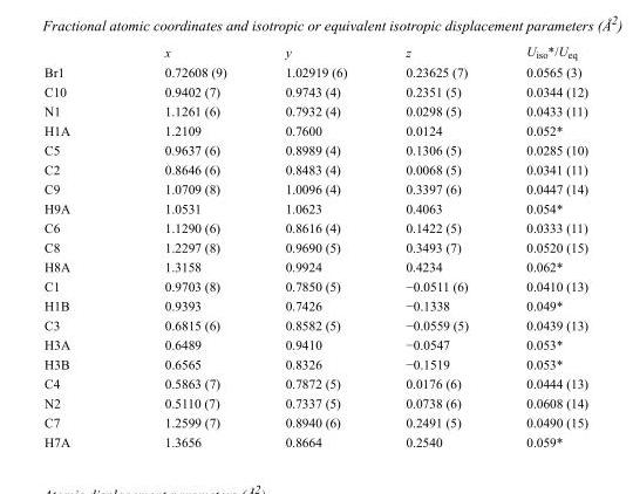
<table><thead><tr><td></td><td>x</td><td>y</td><td>z</td><td>U<sub>iso</sub>*/U<sub>eq</sub></td></tr></thead><tbody><tr><td>Br1</td><td>0.72608 (9)</td><td>1.02919 (6)</td><td>0.23625 (7)</td><td>0.0565 (3)</td></tr><tr><td>C10</td><td>0.9402 (7)</td><td>0.9743 (4)</td><td>0.2351 (5)</td><td>0.0344 (12)</td></tr><tr><td>N1</td><td>1.1261 (6)</td><td>0.7932 (4)</td><td>0.0298 (5)</td><td>0.0433 (11)</td></tr><tr><td>H1A</td><td>1.2109</td><td>0.7600</td><td>0.0124</td><td>0.052*</td></tr><tr><td>C5</td><td>0.9637 (6)</td><td>0.8989 (4)</td><td>0.1306 (5)</td><td>0.0285 (10)</td></tr><tr><td>C2</td><td>0.8646 (6)</td><td>0.8483 (4)</td><td>0.0068 (5)</td><td>0.0341 (11)</td></tr><tr><td>C9</td><td>1.0709 (8)</td><td>1.0096 (4)</td><td>0.3397 (6)</td><td>0.0447 (14)</td></tr><tr><td>H9A</td><td>1.0531</td><td>1.0623</td><td>0.4063</td><td>0.054*</td></tr><tr><td>C6</td><td>1.1290 (6)</td><td>0.8616 (4)</td><td>0.1422 (5)</td><td>0.0333 (11)</td></tr><tr><td>C8</td><td>1.2297 (8)</td><td>0.9690 (5)</td><td>0.3493 (7)</td><td>0.0520 (15)</td></tr><tr><td>H8A</td><td>1.3158</td><td>0.9924</td><td>0.4234</td><td>0.062*</td></tr><tr><td>C1</td><td>0.9703 (8)</td><td>0.7850 (5)</td><td>−0.0511 (6)</td><td>0.0410 (13)</td></tr><tr><td>H1B</td><td>0.9393</td><td>0.7426</td><td>−0.1338</td><td>0.049*</td></tr><tr><td>C3</td><td>0.6815 (6)</td><td>0.8582 (5)</td><td>−0.0559 (5)</td><td>0.0439 (13)</td></tr><tr><td>H3A</td><td>0.6489</td><td>0.9410</td><td>−0.0547</td><td>0.053*</td></tr><tr><td>H3B</td><td>0.6565</td><td>0.8326</td><td>−0.1519</td><td>0.053*</td></tr><tr><td>C4</td><td>0.5863 (7)</td><td>0.7872 (5)</td><td>0.0176 (6)</td><td>0.0444 (13)</td></tr><tr><td>N2</td><td>0.5110 (7)</td><td>0.7337 (5)</td><td>0.0738 (6)</td><td>0.0608 (14)</td></tr><tr><td>C7</td><td>1.2599 (7)</td><td>0.8940 (6)</td><td>0.2491 (5)</td><td>0.0490 (15)</td></tr><tr><td>H7A</td><td>1.3656</td><td>0.8664</td><td>0.2540</td><td>0.059*</td></tr></tbody></table>